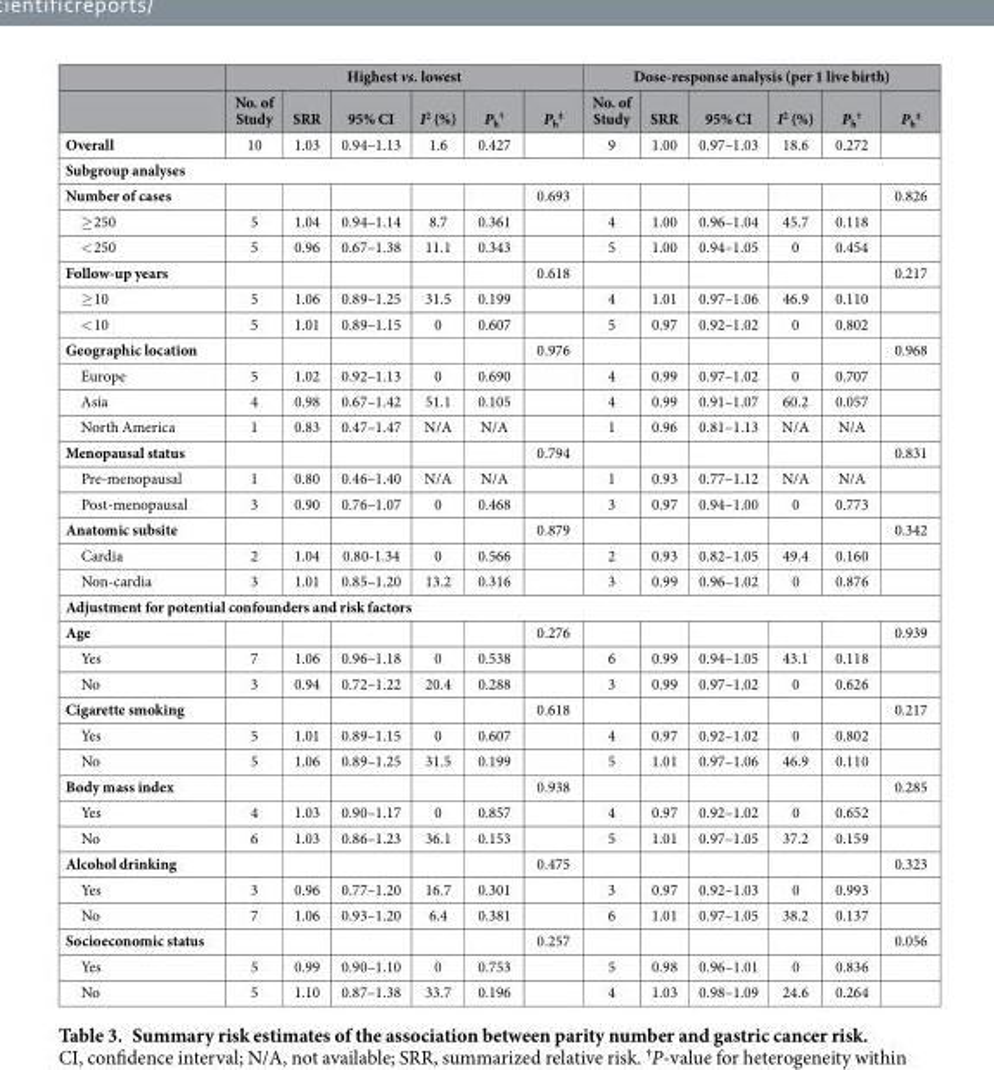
<table><thead><tr><td rowspan="2"></td><td colspan="6">Highest vs. lowest</td><td colspan="6">Dose-response analysis (per 1 live birth)</td></tr><tr><td>No. of Study</td><td>SRR</td><td>95% CI</td><td>I<sup>2</sup> (%)</td><td>P<sub>h</sub> †</td><td>P<sub>h</sub> ‡</td><td>No. of Study</td><td>SRR</td><td>95% CI</td><td>I<sup>2</sup> (%)</td><td>P<sub>h</sub> †</td><td>P<sub>h</sub> ‡</td></tr></thead><tbody><tr><td>Overall</td><td>10</td><td>1.03</td><td>0.94–1.13</td><td>1.6</td><td>0.427</td><td></td><td>9</td><td>1.00</td><td>0.97–1.03</td><td>18.6</td><td>0.272</td><td></td></tr><tr><td colspan="13">Subgroup analyses</td></tr><tr><td>Number of cases</td><td></td><td></td><td></td><td></td><td></td><td>0.693</td><td></td><td></td><td></td><td></td><td></td><td>0.826</td></tr><tr><td>≥ 250</td><td>5</td><td>1.04</td><td>0.94–1.14</td><td>8.7</td><td>0.361</td><td></td><td>4</td><td>1.00</td><td>0.96–1.04</td><td>45.7</td><td>0.118</td><td></td></tr><tr><td>&lt; 250</td><td>5</td><td>0.96</td><td>0.67–1.38</td><td>11.1</td><td>0.343</td><td></td><td>5</td><td>1.00</td><td>0.94–1.05</td><td>0</td><td>0.454</td><td></td></tr><tr><td>Follow-up years</td><td></td><td></td><td></td><td></td><td></td><td>0.618</td><td></td><td></td><td></td><td></td><td></td><td>0.217</td></tr><tr><td>≥ 10</td><td>5</td><td>1.06</td><td>0.89–1.25</td><td>31.5</td><td>0.199</td><td></td><td>4</td><td>1.01</td><td>0.97–1.06</td><td>46.9</td><td>0.110</td><td></td></tr><tr><td>&lt; 10</td><td>5</td><td>1.01</td><td>0.89–1.15</td><td>0</td><td>0.607</td><td></td><td>5</td><td>0.97</td><td>0.92–1.02</td><td>0</td><td>0.802</td><td></td></tr><tr><td>Geographic location</td><td></td><td></td><td></td><td></td><td></td><td>0.976</td><td></td><td></td><td></td><td></td><td></td><td>0.968</td></tr><tr><td>Europe</td><td>5</td><td>1.02</td><td>0.92–1.13</td><td>0</td><td>0.690</td><td></td><td>4</td><td>0.99</td><td>0.97–1.02</td><td>0</td><td>0.707</td><td></td></tr><tr><td>Asia</td><td>4</td><td>0.98</td><td>0.67–1.42</td><td>51.1</td><td>0.105</td><td></td><td>4</td><td>0.99</td><td>0.91–1.07</td><td>60.2</td><td>0.057</td><td></td></tr><tr><td>North America</td><td>1</td><td>0.83</td><td>0.47–1.47</td><td>N/A</td><td>N/A</td><td></td><td>1</td><td>0.96</td><td>0.81–1.13</td><td>N/A</td><td>N/A</td><td></td></tr><tr><td>Menopausal status</td><td></td><td></td><td></td><td></td><td></td><td>0.794</td><td></td><td></td><td></td><td></td><td></td><td>0.831</td></tr><tr><td>Pre-menopausal</td><td>1</td><td>0.80</td><td>0.46–1.40</td><td>N/A</td><td>N/A</td><td></td><td>1</td><td>0.93</td><td>0.77–1.12</td><td>N/A</td><td>N/A</td><td></td></tr><tr><td>Post-menopausal</td><td>3</td><td>0.90</td><td>0.76–1.07</td><td>0</td><td>0.468</td><td></td><td>3</td><td>0.97</td><td>0.94–1.00</td><td>0</td><td>0.773</td><td></td></tr><tr><td>Anatomic subsite</td><td></td><td></td><td></td><td></td><td></td><td>0.879</td><td></td><td></td><td></td><td></td><td></td><td>0.342</td></tr><tr><td>Cardia</td><td>2</td><td>1.04</td><td>0.80-1.34</td><td>0</td><td>0.566</td><td></td><td>2</td><td>0.93</td><td>0.82–1.05</td><td>49.4</td><td>0.160</td><td></td></tr><tr><td>Non-cardia</td><td>3</td><td>1.01</td><td>0.85–1.20</td><td>13.2</td><td>0.316</td><td></td><td>3</td><td>0.99</td><td>0.96–1.02</td><td>0</td><td>0.876</td><td></td></tr><tr><td colspan="13">Adjustment for potential confounders and risk factors</td></tr><tr><td>Age</td><td></td><td></td><td></td><td></td><td></td><td>0.276</td><td></td><td></td><td></td><td></td><td></td><td>0.939</td></tr><tr><td>Yes</td><td>7</td><td>1.06</td><td>0.96–1.18</td><td>0</td><td>0.538</td><td></td><td>6</td><td>0.99</td><td>0.94–1.05</td><td>43.1</td><td>0.118</td><td></td></tr><tr><td>No</td><td>3</td><td>0.94</td><td>0.72–1.22</td><td>20.4</td><td>0.288</td><td></td><td>3</td><td>0.99</td><td>0.97–1.02</td><td>0</td><td>0.626</td><td></td></tr><tr><td>Cigarette smoking</td><td></td><td></td><td></td><td></td><td></td><td>0.618</td><td></td><td></td><td></td><td></td><td></td><td>0.217</td></tr><tr><td>Yes</td><td>5</td><td>1.01</td><td>0.89–1.15</td><td>0</td><td>0.607</td><td></td><td>4</td><td>0.97</td><td>0.92–1.02</td><td>0</td><td>0.802</td><td></td></tr><tr><td>No</td><td>5</td><td>1.06</td><td>0.89–1.25</td><td>31.5</td><td>0.199</td><td></td><td>5</td><td>1.01</td><td>0.97–1.06</td><td>46.9</td><td>0.110</td><td></td></tr><tr><td>Body mass index</td><td></td><td></td><td></td><td></td><td></td><td>0.938</td><td></td><td></td><td></td><td></td><td></td><td>0.285</td></tr><tr><td>Yes</td><td>4</td><td>1.03</td><td>0.90–1.17</td><td>0</td><td>0.857</td><td></td><td>4</td><td>0.97</td><td>0.92–1.02</td><td>0</td><td>0.652</td><td></td></tr><tr><td>No</td><td>6</td><td>1.03</td><td>0.86–1.23</td><td>36.1</td><td>0.153</td><td></td><td>5</td><td>1.01</td><td>0.97–1.05</td><td>37.2</td><td>0.159</td><td></td></tr><tr><td>Alcohol drinking</td><td></td><td></td><td></td><td></td><td></td><td>0.475</td><td></td><td></td><td></td><td></td><td></td><td>0.323</td></tr><tr><td>Yes</td><td>3</td><td>0.96</td><td>0.77–1.20</td><td>16.7</td><td>0.301</td><td></td><td>3</td><td>0.97</td><td>0.92–1.03</td><td>0</td><td>0.993</td><td></td></tr><tr><td>No</td><td>7</td><td>1.06</td><td>0.93–1.20</td><td>6.4</td><td>0.381</td><td></td><td>6</td><td>1.01</td><td>0.97–1.05</td><td>38.2</td><td>0.137</td><td></td></tr><tr><td>Socioeconomic status</td><td></td><td></td><td></td><td></td><td></td><td>0.257</td><td></td><td></td><td></td><td></td><td></td><td>0.056</td></tr><tr><td>Yes</td><td>5</td><td>0.99</td><td>0.90–1.10</td><td>0</td><td>0.753</td><td></td><td>5</td><td>0.98</td><td>0.96–1.01</td><td>0</td><td>0.836</td><td></td></tr><tr><td>No</td><td>5</td><td>1.10</td><td>0.87–1.38</td><td>33.7</td><td>0.196</td><td></td><td>4</td><td>1.03</td><td>0.98–1.09</td><td>24.6</td><td>0.264</td><td></td></tr></tbody></table>